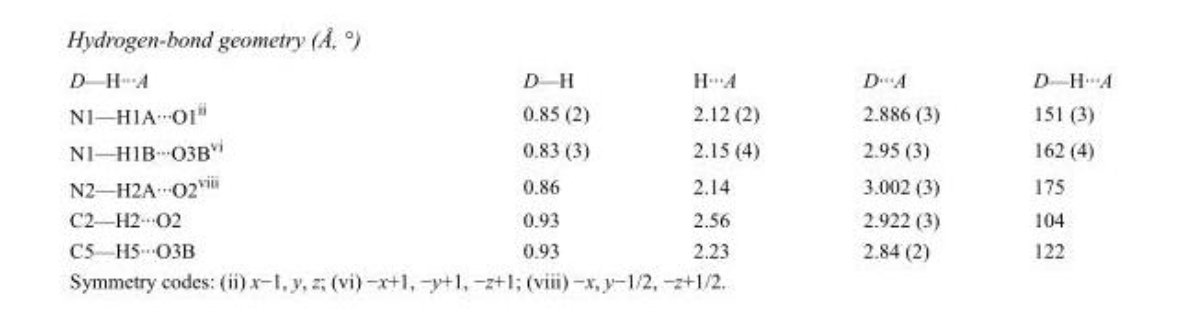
<table><tbody><tr><td>D—H···A</td><td>D—H</td><td>H···A</td><td>D···A</td><td>D—H···A</td></tr><tr><td>N1—H1A···O1<sup>ii</sup></td><td>0.85 (2)</td><td>2.12 (2)</td><td>2.886 (3)</td><td>151 (3)</td></tr><tr><td>N1—H1B···O3B<sup>vi</sup></td><td>0.83 (3)</td><td>2.15 (4)</td><td>2.95 (3)</td><td>162 (4)</td></tr><tr><td>N2—H2A···O2<sup>viii</sup></td><td>0.86</td><td>2.14</td><td>3.002 (3)</td><td>175</td></tr><tr><td>C2—H2···O2</td><td>0.93</td><td>2.56</td><td>2.922 (3)</td><td>104</td></tr><tr><td>C5—H5···O3B</td><td>0.93</td><td>2.23</td><td>2.84 (2)</td><td>122</td></tr></tbody></table>